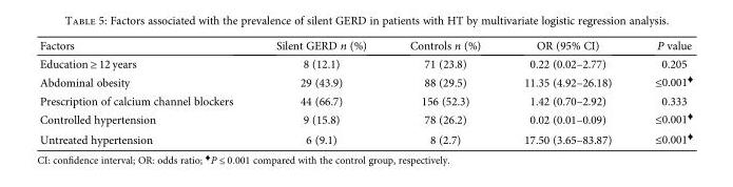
<table><thead><tr><td>Factors</td><td>Silent GERD n (%)</td><td>Controls n (%)</td><td>OR (95% CI)</td><td>P value</td></tr></thead><tbody><tr><td>Education ≥ 12 years</td><td>8 (12.1)</td><td>71 (23.8)</td><td>0.22 (0.02–2.77)</td><td>0.205</td></tr><tr><td>Abdominal obesity</td><td>29 (43.9)</td><td>88 (29.5)</td><td>11.35 (4.92–26.18)</td><td>≤0.001<sup>♦</sup></td></tr><tr><td>Prescription of calcium channel blockers</td><td>44 (66.7)</td><td>156 (52.3)</td><td>1.42 (0.70–2.92)</td><td>0.333</td></tr><tr><td>Controlled hypertension</td><td>9 (15.8)</td><td>78 (26.2)</td><td>0.02 (0.01–0.09)</td><td>≤0.001<sup>♦</sup></td></tr><tr><td>Untreated hypertension</td><td>6 (9.1)</td><td>8 (2.7)</td><td>17.50 (3.65–83.87)</td><td>≤0.001<sup>♦</sup></td></tr></tbody></table>